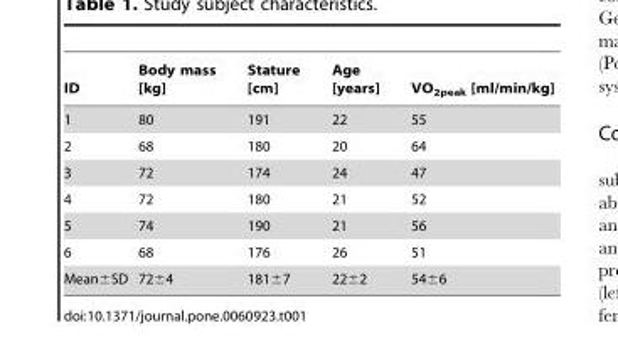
<table><thead><tr><td>ID</td><td>Body mass [kg]</td><td>Stature [cm]</td><td>Age [years]</td><td>VO<sub>2peak</sub> [ml/min/kg]</td></tr></thead><tbody><tr><td>1</td><td>80</td><td>191</td><td>22</td><td>55</td></tr><tr><td>2</td><td>68</td><td>180</td><td>20</td><td>64</td></tr><tr><td>3</td><td>72</td><td>174</td><td>24</td><td>47</td></tr><tr><td>4</td><td>72</td><td>180</td><td>21</td><td>52</td></tr><tr><td>5</td><td>74</td><td>190</td><td>21</td><td>56</td></tr><tr><td>6</td><td>68</td><td>176</td><td>26</td><td>51</td></tr><tr><td>Mean±SD</td><td>72±4</td><td>181±7</td><td>22±2</td><td>54±6</td></tr></tbody></table>